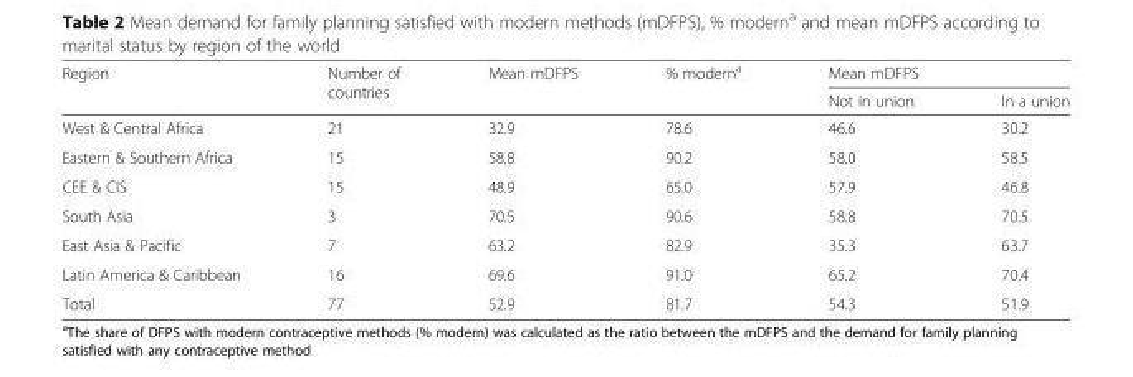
<table><thead><tr><td rowspan="2">Region</td><td rowspan="2">Number of countries</td><td rowspan="2">Mean mDFPS</td><td rowspan="2">% modern<sup>a</sup></td><td colspan="2">Mean mDFPS</td></tr><tr><td>Not in union</td><td>In a union</td></tr></thead><tbody><tr><td>West &amp; Central Africa</td><td>21</td><td>32.9</td><td>78.6</td><td>46.6</td><td>30.2</td></tr><tr><td>Eastern &amp; Southern Africa</td><td>15</td><td>58.8</td><td>90.2</td><td>58.0</td><td>58.5</td></tr><tr><td>CEE &amp; CIS</td><td>15</td><td>48.9</td><td>65.0</td><td>57.9</td><td>46.8</td></tr><tr><td>South Asia</td><td>3</td><td>70.5</td><td>90.6</td><td>58.8</td><td>70.5</td></tr><tr><td>East Asia &amp; Pacific</td><td>7</td><td>63.2</td><td>82.9</td><td>35.3</td><td>63.7</td></tr><tr><td>Latin America &amp; Caribbean</td><td>16</td><td>69.6</td><td>91.0</td><td>65.2</td><td>70.4</td></tr><tr><td>Total</td><td>77</td><td>52.9</td><td>81.7</td><td>54.3</td><td>51.9</td></tr></tbody></table>